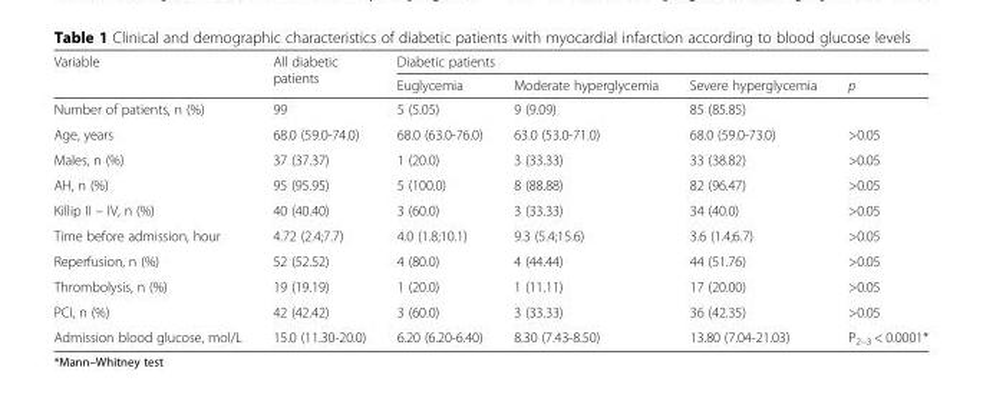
<table><thead><tr><td rowspan="2">Variable</td><td rowspan="2">All diabetic patients</td><td colspan="4">Diabetic patients</td></tr><tr><td>Euglycemia</td><td>Moderate hyperglycemia</td><td>Severe hyperglycemia</td><td>p</td></tr></thead><tbody><tr><td>Number of patients, n (%)</td><td>99</td><td>5 (5.05)</td><td>9 (9.09)</td><td>85 (85.85)</td><td></td></tr><tr><td>Age, years</td><td>68.0 (59.0-74.0)</td><td>68.0 (63.0-76.0)</td><td>63.0 (53.0-71.0)</td><td>68.0 (59.0-73.0)</td><td>&gt;0.05</td></tr><tr><td>Males, n (%)</td><td>37 (37.37)</td><td>1 (20.0)</td><td>3 (33.33)</td><td>33 (38.82)</td><td>&gt;0.05</td></tr><tr><td>AH, n (%)</td><td>95 (95.95)</td><td>5 (100.0)</td><td>8 (88.88)</td><td>82 (96.47)</td><td>&gt;0.05</td></tr><tr><td>Killip II – IV, n (%)</td><td>40 (40.40)</td><td>3 (60.0)</td><td>3 (33.33)</td><td>34 (40.0)</td><td>&gt;0.05</td></tr><tr><td>Time before admission, hour</td><td>4.72 (2.4;7.7)</td><td>4.0 (1.8;10.1)</td><td>9.3 (5.4;15.6)</td><td>3.6 (1.4;6.7)</td><td>&gt;0.05</td></tr><tr><td>Reperfusion, n (%)</td><td>52 (52.52)</td><td>4 (80.0)</td><td>4 (44.44)</td><td>44 (51.76)</td><td>&gt;0.05</td></tr><tr><td>Thrombolysis, n (%)</td><td>19 (19.19)</td><td>1 (20.0)</td><td>1 (11.11)</td><td>17 (20.00)</td><td>&gt;0.05</td></tr><tr><td>PCI, n (%)</td><td>42 (42.42)</td><td>3 (60.0)</td><td>3 (33.33)</td><td>36 (42.35)</td><td>&gt;0.05</td></tr><tr><td>Admission blood glucose, mol/L</td><td>15.0 (11.30-20.0)</td><td>6.20 (6.20-6.40)</td><td>8.30 (7.43-8.50)</td><td>13.80 (7.04-21.03)</td><td>P<sub>2–3</sub> &lt; 0.0001*</td></tr></tbody></table>